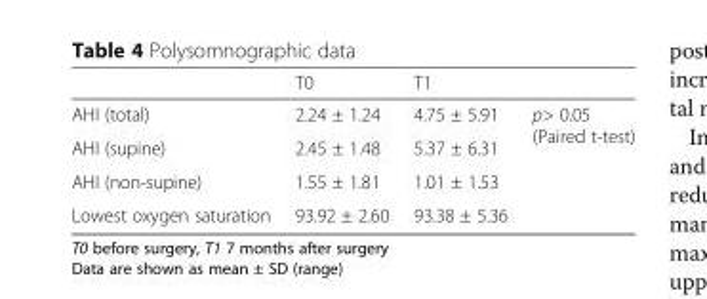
<table><thead><tr><td></td><td>T0</td><td>T1</td><td></td></tr></thead><tbody><tr><td>AHI (total)</td><td>2.24 ± 1.24</td><td>4.75 ± 5.91</td><td rowspan="4">p&gt; 0.05 (Paired t-test)</td></tr><tr><td>AHI (supine)</td><td>2.45 ± 1.48</td><td>5.37 ± 6.31</td></tr><tr><td>AHI (non-supine)</td><td>1.55 ± 1.81</td><td>1.01 ± 1.53</td></tr><tr><td>Lowest oxygen saturation</td><td>93.92 ± 2.60</td><td>93.38 ± 5.36</td></tr></tbody></table>